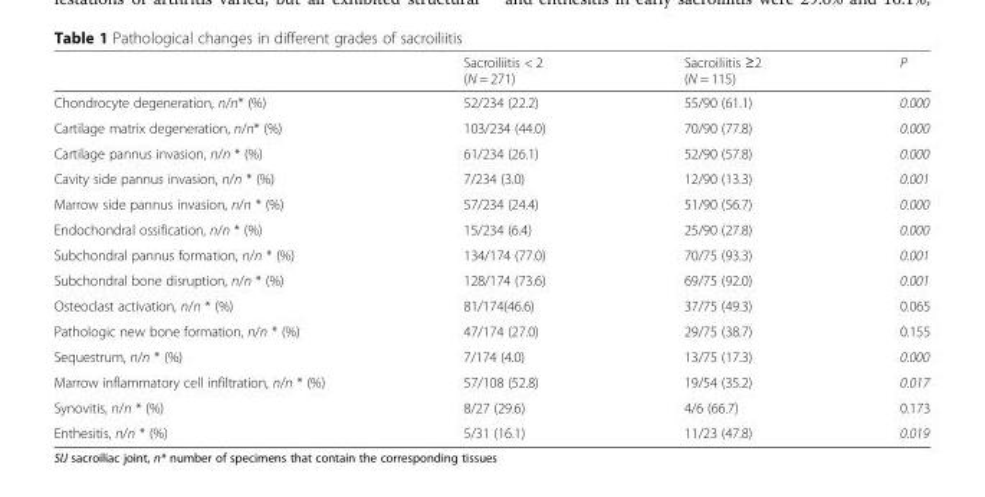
<table><thead><tr><td></td><td>Sacroiliitis &lt; 2 (N = 271)</td><td>Sacroiliitis ≥2 (N = 115)</td><td>P</td></tr></thead><tbody><tr><td>Chondrocyte degeneration, n/n* (%)</td><td>52/234 (22.2)</td><td>55/90 (61.1)</td><td>0.000</td></tr><tr><td>Cartilage matrix degeneration, n/n* (%)</td><td>103/234 (44.0)</td><td>70/90 (77.8)</td><td>0.000</td></tr><tr><td>Cartilage pannus invasion, n/n * (%)</td><td>61/234 (26.1)</td><td>52/90 (57.8)</td><td>0.000</td></tr><tr><td>Cavity side pannus invasion, n/n * (%)</td><td>7/234 (3.0)</td><td>12/90 (13.3)</td><td>0.001</td></tr><tr><td>Marrow side pannus invasion, n/n * (%)</td><td>57/234 (24.4)</td><td>51/90 (56.7)</td><td>0.000</td></tr><tr><td>Endochondral ossification, n/n * (%)</td><td>15/234 (6.4)</td><td>25/90 (27.8)</td><td>0.000</td></tr><tr><td>Subchondral pannus formation, n/n * (%)</td><td>134/174 (77.0)</td><td>70/75 (93.3)</td><td>0.001</td></tr><tr><td>Subchondral bone disruption, n/n * (%)</td><td>128/174 (73.6)</td><td>69/75 (92.0)</td><td>0.001</td></tr><tr><td>Osteoclast activation, n/n * (%)</td><td>81/174(46.6)</td><td>37/75 (49.3)</td><td>0.065</td></tr><tr><td>Pathologic new bone formation, n/n * (%)</td><td>47/174 (27.0)</td><td>29/75 (38.7)</td><td>0.155</td></tr><tr><td>Sequestrum, n/n * (%)</td><td>7/174 (4.0)</td><td>13/75 (17.3)</td><td>0.000</td></tr><tr><td>Marrow inflammatory cell infiltration, n/n * (%)</td><td>57/108 (52.8)</td><td>19/54 (35.2)</td><td>0.017</td></tr><tr><td>Synovitis, n/n * (%)</td><td>8/27 (29.6)</td><td>4/6 (66.7)</td><td>0.173</td></tr><tr><td>Enthesitis, n/n * (%)</td><td>5/31 (16.1)</td><td>11/23 (47.8)</td><td>0.019</td></tr></tbody></table>